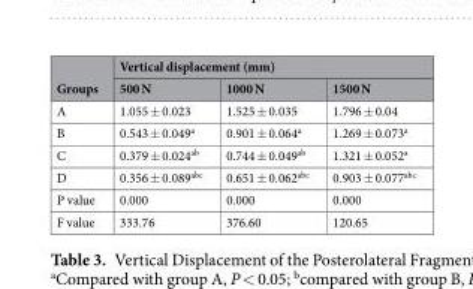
<table><thead><tr><td rowspan="2">Groups</td><td colspan="3">Vertical displacement (mm)</td></tr><tr><td>500 N</td><td>1000 N</td><td>1500 N</td></tr></thead><tbody><tr><td>A</td><td>1.055 ± 0.023</td><td>1.525 ± 0.035</td><td>1.796 ± 0.04</td></tr><tr><td>B</td><td>0.543 ± 0.049<sup>a</sup></td><td>0.901 ± 0.064<sup>a</sup></td><td>1.269 ± 0.073<sup>a</sup></td></tr><tr><td>C</td><td>0.379 ± 0.024<sup>ab</sup></td><td>0.744 ± 0.049<sup>ab</sup></td><td>1.321 ± 0.052<sup>a</sup></td></tr><tr><td>D</td><td>0.356 ± 0.089<sup>abc</sup></td><td>0.651 ± 0.062<sup>abc</sup></td><td>0.903 ± 0.077<sup>abc</sup></td></tr><tr><td>P value</td><td>0.000</td><td>0.000</td><td>0.000</td></tr><tr><td>F value</td><td>333.76</td><td>376.60</td><td>120.65</td></tr></tbody></table>